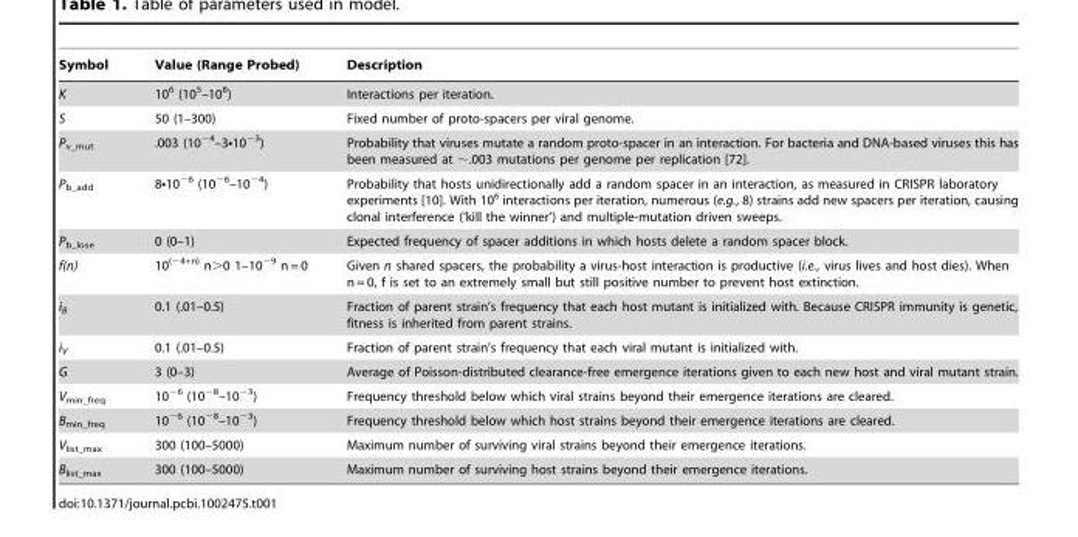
<table><thead><tr><td>Symbol</td><td>Value (Range Probed)</td><td>Description</td></tr></thead><tbody><tr><td>K</td><td>10<sup>6</sup> (10<sup>5</sup>–10<sup>8</sup>)</td><td>Interactions per iteration.</td></tr><tr><td>S</td><td>50 (1–300)</td><td>Fixed number of proto-spacers per viral genome.</td></tr><tr><td>P<sub>v_mut</sub></td><td>.003 (10<sup>−4</sup>–3•10<sup>−3</sup>)</td><td>Probability that viruses mutate a random proto-spacer in an interaction. For bacteria and DNA-based viruses this has been measured at ∼.003 mutations per genome per replication [72].</td></tr><tr><td>P<sub>b_add</sub></td><td>8•10<sup>−6</sup> (10<sup>−6</sup>–10<sup>−4</sup>)</td><td>Probability that hosts unidirectionally add a random spacer in an interaction, as measured in CRISPR laboratory experiments [10]. With 10<sup>6</sup> interactions per iteration, numerous (e.g., 8) strains add new spacers per iteration, causing clonal interference (‘kill the winner’) and multiple-mutation driven sweeps.</td></tr><tr><td>P<sub>b_lose</sub></td><td>0 (0–1)</td><td>Expected frequency of spacer additions in which hosts delete a random spacer block.</td></tr><tr><td>f(n)</td><td>10<sup>(−4+n)</sup> n&gt;0 1–10<sup>−9</sup> n = 0</td><td>Given n shared spacers, the probability a virus-host interaction is productive (i.e., virus lives and host dies). When n = 0, f is set to an extremely small but still positive number to prevent host extinction.</td></tr><tr><td>i<sub>B</sub></td><td>0.1 (.01–0.5)</td><td>Fraction of parent strain’s frequency that each host mutant is initialized with. Because CRISPR immunity is genetic, fitness is inherited from parent strains.</td></tr><tr><td>i<sub>V</sub></td><td>0.1 (.01–0.5)</td><td>Fraction of parent strain’s frequency that each viral mutant is initialized with.</td></tr><tr><td>G</td><td>3 (0–3)</td><td>Average of Poisson-distributed clearance-free emergence iterations given to each new host and viral mutant strain.</td></tr><tr><td>V<sub>min_freq</sub></td><td>10<sup>−6</sup> (10<sup>−8</sup>–10<sup>−3</sup>)</td><td>Frequency threshold below which viral strains beyond their emergence iterations are cleared.</td></tr><tr><td>B<sub>min_freq</sub></td><td>10<sup>−6</sup> (10<sup>−8</sup>–10<sup>−3</sup>)</td><td>Frequency threshold below which host strains beyond their emergence iterations are cleared.</td></tr><tr><td>V<sub>list_max</sub></td><td>300 (100–5000)</td><td>Maximum number of surviving viral strains beyond their emergence iterations.</td></tr><tr><td>B<sub>list_max</sub></td><td>300 (100–5000)</td><td>Maximum number of surviving host strains beyond their emergence iterations.</td></tr></tbody></table>